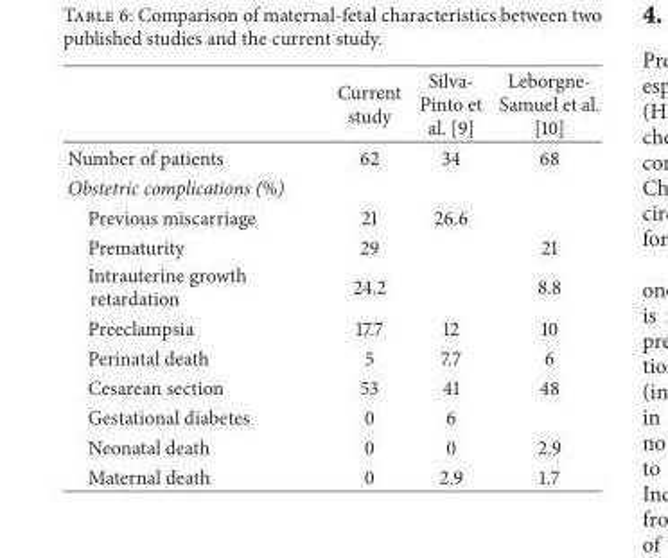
<table><thead><tr><td></td><td>Current study</td><td>Silva- Pinto et al. [9]</td><td>Leborgne- Samuel et al. [10]</td></tr></thead><tbody><tr><td>Number of patients</td><td>62</td><td>34</td><td>68</td></tr><tr><td colspan="4">Obstetric complications (%)</td></tr><tr><td>Previous miscarriage</td><td>21</td><td>26.6</td><td></td></tr><tr><td>Prematurity</td><td>29</td><td></td><td>21</td></tr><tr><td>Intrauterine growth retardation</td><td>24.2</td><td></td><td>8.8</td></tr><tr><td>Preeclampsia</td><td>17.7</td><td>12</td><td>10</td></tr><tr><td>Perinatal death</td><td>5</td><td>7.7</td><td>6</td></tr><tr><td>Cesarean section</td><td>53</td><td>41</td><td>48</td></tr><tr><td>Gestational diabetes</td><td>0</td><td>6</td><td></td></tr><tr><td>Neonatal death</td><td>0</td><td>0</td><td>2.9</td></tr><tr><td>Maternal death</td><td>0</td><td>2.9</td><td>1.7</td></tr></tbody></table>